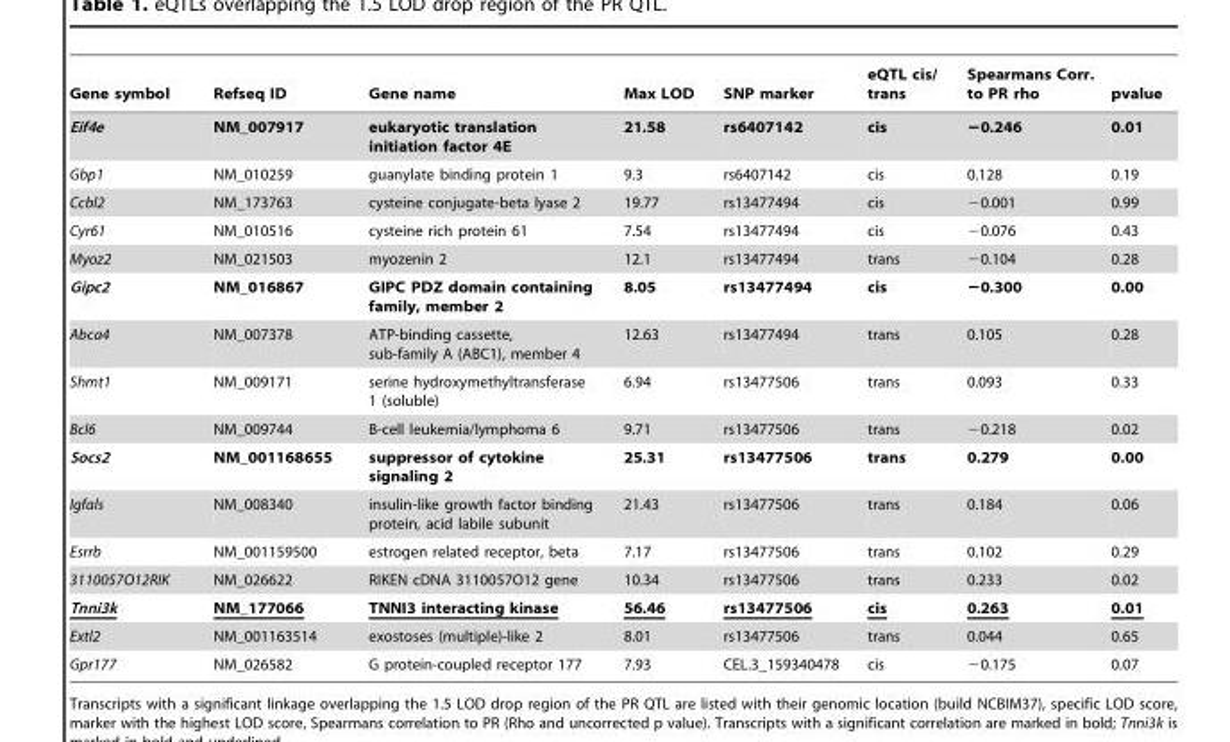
<table><thead><tr><td>Gene symbol</td><td>Refseq ID</td><td>Gene name</td><td>Max LOD</td><td>SNP marker</td><td>eQTL cis/ trans</td><td>Spearmans Corr. to PR rho</td><td>pvalue</td></tr></thead><tbody><tr><td>Eif4e</td><td>NM_007917</td><td>eukaryotic translation initiation factor 4E</td><td>21.58</td><td>rs6407142</td><td>cis</td><td>−0.246</td><td>0.01</td></tr><tr><td>Gbp1</td><td>NM_010259</td><td>guanylate binding protein 1</td><td>9.3</td><td>rs6407142</td><td>cis</td><td>0.128</td><td>0.19</td></tr><tr><td>Ccbl2</td><td>NM_173763</td><td>cysteine conjugate-beta lyase 2</td><td>19.77</td><td>rs13477494</td><td>cis</td><td>−0.001</td><td>0.99</td></tr><tr><td>Cyr61</td><td>NM_010516</td><td>cysteine rich protein 61</td><td>7.54</td><td>rs13477494</td><td>cis</td><td>−0.076</td><td>0.43</td></tr><tr><td>Myoz2</td><td>NM_021503</td><td>myozenin 2</td><td>12.1</td><td>rs13477494</td><td>trans</td><td>−0.104</td><td>0.28</td></tr><tr><td>Gipc2</td><td>NM_016867</td><td>GIPC PDZ domain containing family, member 2</td><td>8.05</td><td>rs13477494</td><td>cis</td><td>−0.300</td><td>0.00</td></tr><tr><td>Abca4</td><td>NM_007378</td><td>ATP-binding cassette, sub-family A (ABC1), member 4</td><td>12.63</td><td>rs13477494</td><td>trans</td><td>0.105</td><td>0.28</td></tr><tr><td>Shmt1</td><td>NM_009171</td><td>serine hydroxymethyltransferase 1 (soluble)</td><td>6.94</td><td>rs13477506</td><td>trans</td><td>0.093</td><td>0.33</td></tr><tr><td>Bcl6</td><td>NM_009744</td><td>B-cell leukemia/lymphoma 6</td><td>9.71</td><td>rs13477506</td><td>trans</td><td>−0.218</td><td>0.02</td></tr><tr><td>Socs2</td><td>NM_001168655</td><td>suppressor of cytokine signaling 2</td><td>25.31</td><td>rs13477506</td><td>trans</td><td>0.279</td><td>0.00</td></tr><tr><td>Igfals</td><td>NM_008340</td><td>insulin-like growth factor binding protein, acid labile subunit</td><td>21.43</td><td>rs13477506</td><td>trans</td><td>0.184</td><td>0.06</td></tr><tr><td>Esrrb</td><td>NM_001159500</td><td>estrogen related receptor, beta</td><td>7.17</td><td>rs13477506</td><td>trans</td><td>0.102</td><td>0.29</td></tr><tr><td>3110057O12RIK</td><td>NM_026622</td><td>RIKEN cDNA 3110057O12 gene</td><td>10.34</td><td>rs13477506</td><td>trans</td><td>0.233</td><td>0.02</td></tr><tr><td>Tnni3k</td><td>NM_177066</td><td>TNNI3 interacting kinase</td><td>56.46</td><td>rs13477506</td><td>cis</td><td>0.263</td><td>0.01</td></tr><tr><td>Extl2</td><td>NM_001163514</td><td>exostoses (multiple)-like 2</td><td>8.01</td><td>rs13477506</td><td>trans</td><td>0.044</td><td>0.65</td></tr><tr><td>Gpr177</td><td>NM_026582</td><td>G protein-coupled receptor 177</td><td>7.93</td><td>CEL.3_159340478</td><td>cis</td><td>−0.175</td><td>0.07</td></tr></tbody></table>